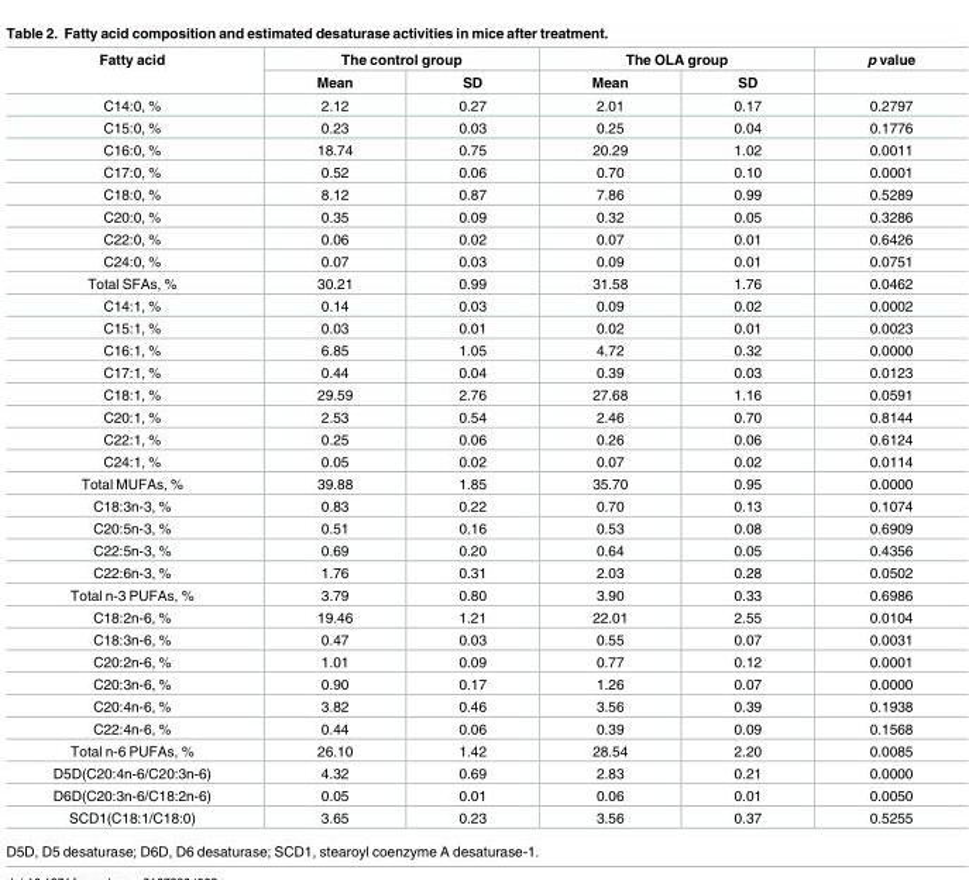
<table><thead><tr><td rowspan="2">Fatty acid</td><td colspan="2">The control group</td><td colspan="2">The OLA group</td><td rowspan="2">p value</td></tr><tr><td>Mean</td><td>SD</td><td>Mean</td><td>SD</td></tr></thead><tbody><tr><td>C14:0, %</td><td>2.12</td><td>0.27</td><td>2.01</td><td>0.17</td><td>0.2797</td></tr><tr><td>C15:0, %</td><td>0.23</td><td>0.03</td><td>0.25</td><td>0.04</td><td>0.1776</td></tr><tr><td>C16:0, %</td><td>18.74</td><td>0.75</td><td>20.29</td><td>1.02</td><td>0.0011</td></tr><tr><td>C17:0, %</td><td>0.52</td><td>0.06</td><td>0.70</td><td>0.10</td><td>0.0001</td></tr><tr><td>C18:0, %</td><td>8.12</td><td>0.87</td><td>7.86</td><td>0.99</td><td>0.5289</td></tr><tr><td>C20:0, %</td><td>0.35</td><td>0.09</td><td>0.32</td><td>0.05</td><td>0.3286</td></tr><tr><td>C22:0, %</td><td>0.06</td><td>0.02</td><td>0.07</td><td>0.01</td><td>0.6426</td></tr><tr><td>C24:0, %</td><td>0.07</td><td>0.03</td><td>0.09</td><td>0.01</td><td>0.0751</td></tr><tr><td>Total SFAs, %</td><td>30.21</td><td>0.99</td><td>31.58</td><td>1.76</td><td>0.0462</td></tr><tr><td>C14:1, %</td><td>0.14</td><td>0.03</td><td>0.09</td><td>0.02</td><td>0.0002</td></tr><tr><td>C15:1, %</td><td>0.03</td><td>0.01</td><td>0.02</td><td>0.01</td><td>0.0023</td></tr><tr><td>C16:1, %</td><td>6.85</td><td>1.05</td><td>4.72</td><td>0.32</td><td>0.0000</td></tr><tr><td>C17:1, %</td><td>0.44</td><td>0.04</td><td>0.39</td><td>0.03</td><td>0.0123</td></tr><tr><td>C18:1, %</td><td>29.59</td><td>2.76</td><td>27.68</td><td>1.16</td><td>0.0591</td></tr><tr><td>C20:1, %</td><td>2.53</td><td>0.54</td><td>2.46</td><td>0.70</td><td>0.8144</td></tr><tr><td>C22:1, %</td><td>0.25</td><td>0.06</td><td>0.26</td><td>0.06</td><td>0.6124</td></tr><tr><td>C24:1, %</td><td>0.05</td><td>0.02</td><td>0.07</td><td>0.02</td><td>0.0114</td></tr><tr><td>Total MUFAs, %</td><td>39.88</td><td>1.85</td><td>35.70</td><td>0.95</td><td>0.0000</td></tr><tr><td>C18:3n-3, %</td><td>0.83</td><td>0.22</td><td>0.70</td><td>0.13</td><td>0.1074</td></tr><tr><td>C20:5n-3, %</td><td>0.51</td><td>0.16</td><td>0.53</td><td>0.08</td><td>0.6909</td></tr><tr><td>C22:5n-3, %</td><td>0.69</td><td>0.20</td><td>0.64</td><td>0.05</td><td>0.4356</td></tr><tr><td>C22:6n-3, %</td><td>1.76</td><td>0.31</td><td>2.03</td><td>0.28</td><td>0.0502</td></tr><tr><td>Total n-3 PUFAs, %</td><td>3.79</td><td>0.80</td><td>3.90</td><td>0.33</td><td>0.6986</td></tr><tr><td>C18:2n-6, %</td><td>19.46</td><td>1.21</td><td>22.01</td><td>2.55</td><td>0.0104</td></tr><tr><td>C18:3n-6, %</td><td>0.47</td><td>0.03</td><td>0.55</td><td>0.07</td><td>0.0031</td></tr><tr><td>C20:2n-6, %</td><td>1.01</td><td>0.09</td><td>0.77</td><td>0.12</td><td>0.0001</td></tr><tr><td>C20:3n-6, %</td><td>0.90</td><td>0.17</td><td>1.26</td><td>0.07</td><td>0.0000</td></tr><tr><td>C20:4n-6, %</td><td>3.82</td><td>0.46</td><td>3.56</td><td>0.39</td><td>0.1938</td></tr><tr><td>C22:4n-6, %</td><td>0.44</td><td>0.06</td><td>0.39</td><td>0.09</td><td>0.1568</td></tr><tr><td>Total n-6 PUFAs, %</td><td>26.10</td><td>1.42</td><td>28.54</td><td>2.20</td><td>0.0085</td></tr><tr><td>D5D(C20:4n-6/C20:3n-6)</td><td>4.32</td><td>0.69</td><td>2.83</td><td>0.21</td><td>0.0000</td></tr><tr><td>D6D(C20:3n-6/C18:2n-6)</td><td>0.05</td><td>0.01</td><td>0.06</td><td>0.01</td><td>0.0050</td></tr><tr><td>SCD1(C18:1/C18:0)</td><td>3.65</td><td>0.23</td><td>3.56</td><td>0.37</td><td>0.5255</td></tr></tbody></table>